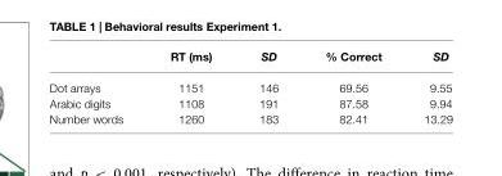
<table><thead><tr><td></td><td>RT (ms)</td><td>SD</td><td>% Correct</td><td>SD</td></tr></thead><tbody><tr><td>Dot arrays</td><td>1151</td><td>146</td><td>69.56</td><td>9.55</td></tr><tr><td>Arabic digits</td><td>1108</td><td>191</td><td>87.58</td><td>9.94</td></tr><tr><td>Number words</td><td>1260</td><td>183</td><td>82.41</td><td>13.29</td></tr></tbody></table>